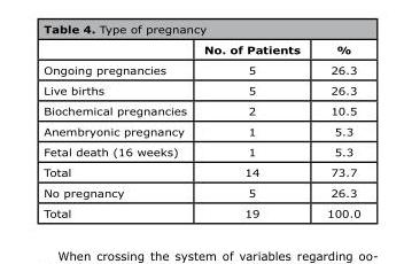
<table><thead><tr><td></td><td>No. of Patients</td><td>%</td></tr></thead><tbody><tr><td>Ongoing pregnancies</td><td>5</td><td>26.3</td></tr><tr><td>Live births</td><td>5</td><td>26.3</td></tr><tr><td>Biochemical pregnancies</td><td>2</td><td>10.5</td></tr><tr><td>Anembryonic pregnancy</td><td>1</td><td>5.3</td></tr><tr><td>Fetal death (16 weeks)</td><td>1</td><td>5.3</td></tr><tr><td>Total</td><td>14</td><td>73.7</td></tr><tr><td>No pregnancy</td><td>5</td><td>26.3</td></tr><tr><td>Total</td><td>19</td><td>100.0</td></tr></tbody></table>